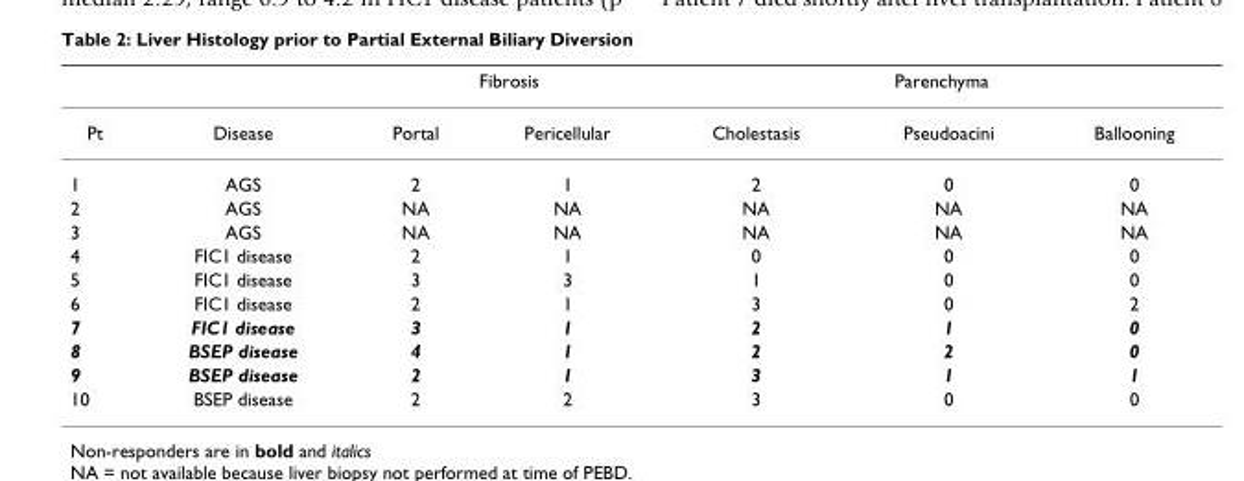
<table><thead><tr><td rowspan="2">Pt</td><td rowspan="2">Disease</td><td colspan="2">Fibrosis</td><td colspan="3">Parenchyma</td></tr><tr><td>Portal</td><td>Pericellular</td><td>Cholestasis</td><td>Pseudoacini</td><td>Ballooning</td></tr></thead><tbody><tr><td>1</td><td>AGS</td><td>2</td><td>1</td><td>2</td><td>0</td><td>0</td></tr><tr><td>2</td><td>AGS</td><td>NA</td><td>NA</td><td>NA</td><td>NA</td><td>NA</td></tr><tr><td>3</td><td>AGS</td><td>NA</td><td>NA</td><td>NA</td><td>NA</td><td>NA</td></tr><tr><td>4</td><td>FIC1 disease</td><td>2</td><td>1</td><td>0</td><td>0</td><td>0</td></tr><tr><td>5</td><td>FIC1 disease</td><td>3</td><td>3</td><td>1</td><td>0</td><td>0</td></tr><tr><td>6</td><td>FIC1 disease</td><td>2</td><td>1</td><td>3</td><td>0</td><td>2</td></tr><tr><td>7</td><td>FIC1 disease</td><td>3</td><td>1</td><td>2</td><td>1</td><td>0</td></tr><tr><td>8</td><td>BSEP disease</td><td>4</td><td>1</td><td>2</td><td>2</td><td>0</td></tr><tr><td>9</td><td>BSEP disease</td><td>2</td><td>1</td><td>3</td><td>1</td><td>1</td></tr><tr><td>10</td><td>BSEP disease</td><td>2</td><td>2</td><td>3</td><td>0</td><td>0</td></tr></tbody></table>